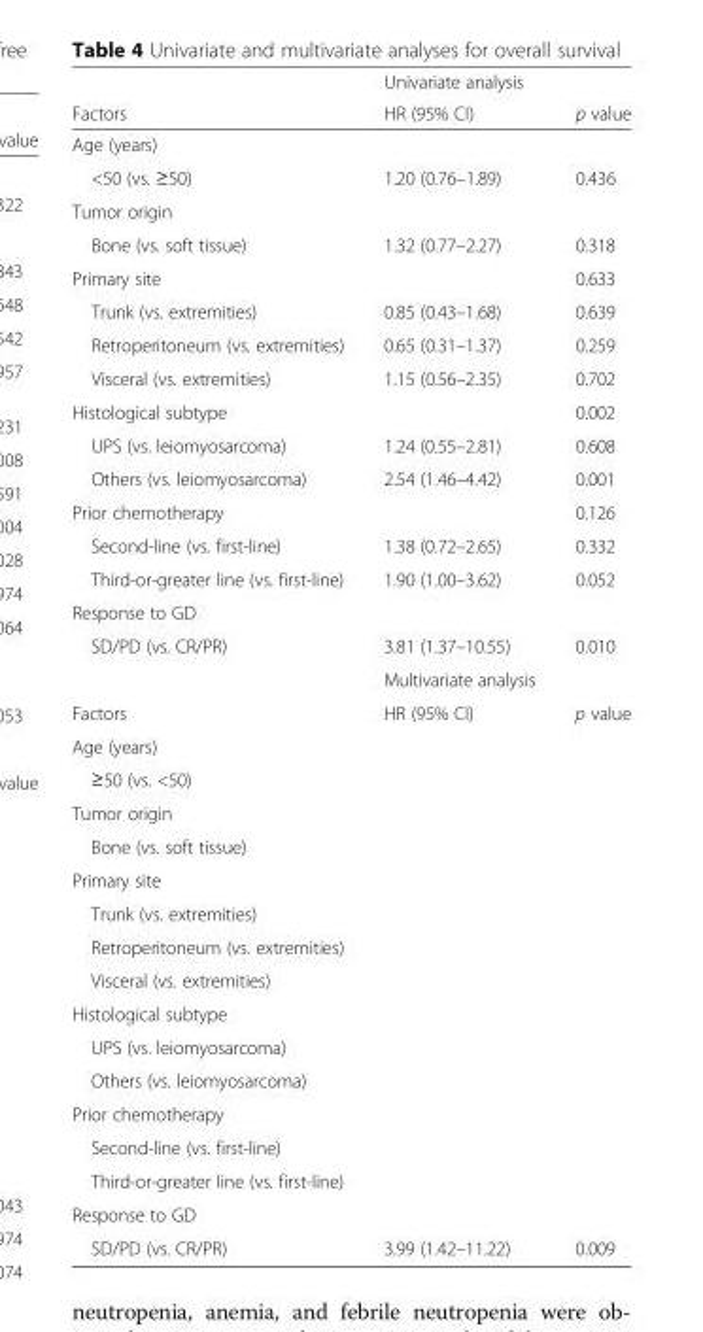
<table><thead><tr><td rowspan="2">Factors</td><td rowspan="2">Univariate analysis HR (95% CI)</td><td rowspan="2">p value</td></tr><tr></tr></thead><tbody><tr><td colspan="3">Age (years)</td></tr><tr><td>&lt;50 (vs. ≥50)</td><td>1.20 (0.76–1.89)</td><td>0.436</td></tr><tr><td colspan="3">Tumor origin</td></tr><tr><td>Bone (vs. soft tissue)</td><td>1.32 (0.77–2.27)</td><td>0.318</td></tr><tr><td>Primary site</td><td></td><td>0.633</td></tr><tr><td>Trunk (vs. extremities)</td><td>0.85 (0.43–1.68)</td><td>0.639</td></tr><tr><td>Retroperitoneum (vs. extremities)</td><td>0.65 (0.31–1.37)</td><td>0.259</td></tr><tr><td>Visceral (vs. extremities)</td><td>1.15 (0.56–2.35)</td><td>0.702</td></tr><tr><td>Histological subtype</td><td></td><td>0.002</td></tr><tr><td>UPS (vs. leiomyosarcoma)</td><td>1.24 (0.55–2.81)</td><td>0.608</td></tr><tr><td>Others (vs. leiomyosarcoma)</td><td>2.54 (1.46–4.42)</td><td>0.001</td></tr><tr><td>Prior chemotherapy</td><td></td><td>0.126</td></tr><tr><td>Second-line (vs. first-line)</td><td>1.38 (0.72–2.65)</td><td>0.332</td></tr><tr><td>Third-or-greater line (vs. first-line)</td><td>1.90 (1.00–3.62)</td><td>0.052</td></tr><tr><td colspan="3">Response to GD</td></tr><tr><td rowspan="2">SD/PD (vs. CR/PR)</td><td>3.81 (1.37–10.55)</td><td>0.010</td></tr><tr><td>Multivariate analysis</td><td></td></tr><tr><td>Factors</td><td>HR (95% CI)</td><td>p value</td></tr><tr><td colspan="3">Age (years)</td></tr><tr><td colspan="3">≥50 (vs. &lt;50)</td></tr><tr><td colspan="3">Tumor origin</td></tr><tr><td colspan="3">Bone (vs. soft tissue)</td></tr><tr><td colspan="3">Primary site</td></tr><tr><td colspan="3">Trunk (vs. extremities)</td></tr><tr><td colspan="3">Retroperitoneum (vs. extremities)</td></tr><tr><td colspan="3">Visceral (vs. extremities)</td></tr><tr><td colspan="3">Histological subtype</td></tr><tr><td colspan="3">UPS (vs. leiomyosarcoma)</td></tr><tr><td colspan="3">Others (vs. leiomyosarcoma)</td></tr><tr><td colspan="3">Prior chemotherapy</td></tr><tr><td colspan="3">Second-line (vs. first-line)</td></tr><tr><td colspan="3">Third-or-greater line (vs. first-line)</td></tr><tr><td colspan="3">Response to GD</td></tr><tr><td>SD/PD (vs. CR/PR)</td><td>3.99 (1.42–11.22)</td><td>0.009</td></tr></tbody></table>